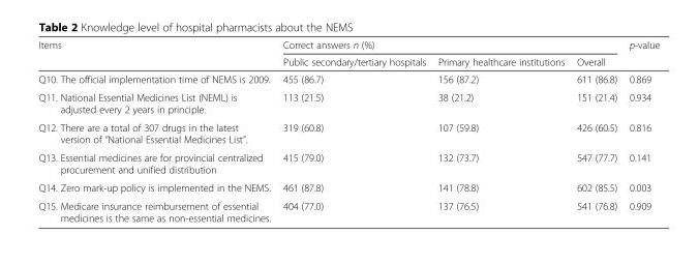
<table><thead><tr><td rowspan="2">Items</td><td colspan="3">Correct answers n (%)</td><td rowspan="2">p-value</td></tr><tr><td>Public secondary/tertiary hospitals</td><td>Primary healthcare institutions</td><td>Overall</td></tr></thead><tbody><tr><td>Q10. The official implementation time of NEMS is 2009.</td><td>455 (86.7)</td><td>156 (87.2)</td><td>611 (86.8)</td><td>0.869</td></tr><tr><td>Q11. National Essential Medicines List (NEML) is adjusted every 2 years in principle.</td><td>113 (21.5)</td><td>38 (21.2)</td><td>151 (21.4)</td><td>0.934</td></tr><tr><td>Q12. There are a total of 307 drugs in the latest version of “National Essential Medicines List”.</td><td>319 (60.8)</td><td>107 (59.8)</td><td>426 (60.5)</td><td>0.816</td></tr><tr><td>Q13. Essential medicines are for provincial centralized procurement and unified distribution</td><td>415 (79.0)</td><td>132 (73.7)</td><td>547 (77.7)</td><td>0.141</td></tr><tr><td>Q14. Zero mark-up policy is implemented in the NEMS.</td><td>461 (87.8)</td><td>141 (78.8)</td><td>602 (85.5)</td><td>0.003</td></tr><tr><td>Q15. Medicare insurance reimbursement of essential medicines is the same as non-essential medicines.</td><td>404 (77.0)</td><td>137 (76.5)</td><td>541 (76.8)</td><td>0.909</td></tr></tbody></table>